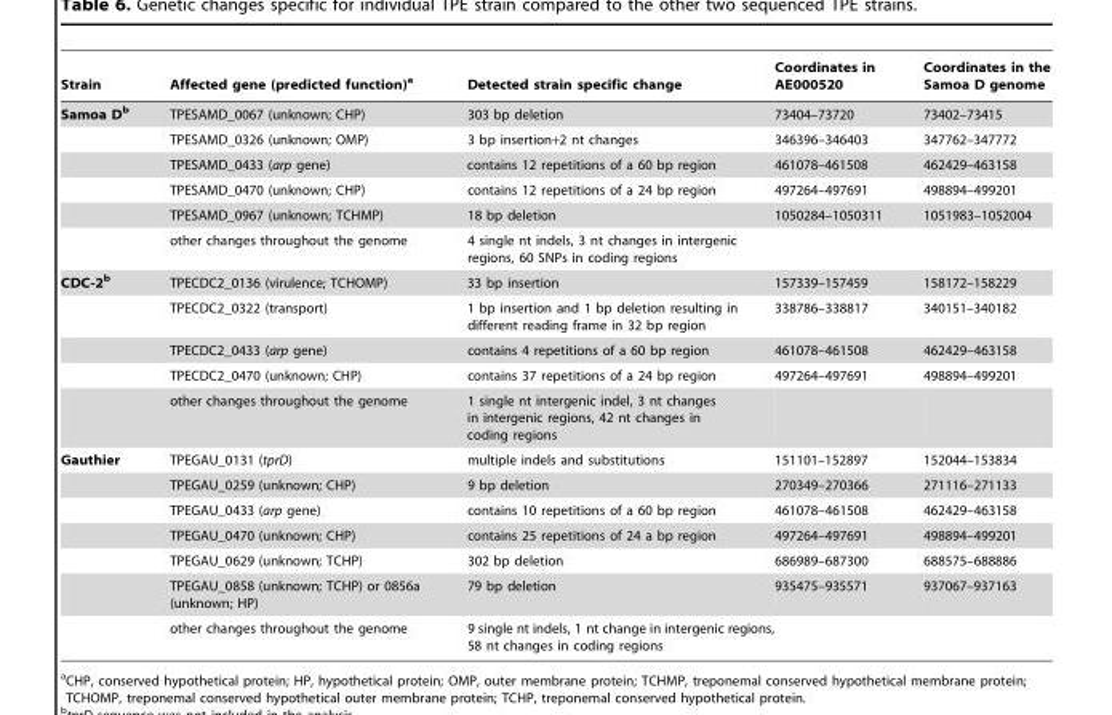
<table><thead><tr><td>Strain</td><td>Affected gene (predicted function)<sup>a</sup></td><td>Detected strain specific change</td><td>Coordinates in AE000520</td><td>Coordinates in the Samoa D genome</td></tr></thead><tbody><tr><td rowspan="6">Samoa Db</td><td>TPESAMD_0067 (unknown; CHP)</td><td>303 bp deletion</td><td>73404–73720</td><td>73402–73415</td></tr><tr><td>TPESAMD_0326 (unknown; OMP)</td><td>3 bp insertion+2 nt changes</td><td>346396–346403</td><td>347762–347772</td></tr><tr><td>TPESAMD_0433 (arp gene)</td><td>contains 12 repetitions of a 60 bp region</td><td>461078–461508</td><td>462429–463158</td></tr><tr><td>TPESAMD_0470 (unknown; CHP)</td><td>contains 12 repetitions of a 24 bp region</td><td>497264–497691</td><td>498894–499201</td></tr><tr><td>TPESAMD_0967 (unknown; TCHMP)</td><td>18 bp deletion</td><td>1050284–1050311</td><td>1051983–1052004</td></tr><tr><td>other changes throughout the genome</td><td>4 single nt indels, 3 nt changes in intergenic regions, 60 SNPs in coding regions</td><td></td><td></td></tr><tr><td rowspan="5">CDC-2b</td><td>TPECDC2_0136 (virulence; TCHOMP)</td><td>33 bp insertion</td><td>157339–157459</td><td>158172–158229</td></tr><tr><td>TPECDC2_0322 (transport)</td><td>1 bp insertion and 1 bp deletion resulting in different reading frame in 32 bp region</td><td>338786–338817</td><td>340151–340182</td></tr><tr><td>TPECDC2_0433 (arp gene)</td><td>contains 4 repetitions of a 60 bp region</td><td>461078–461508</td><td>462429–463158</td></tr><tr><td>TPECDC2_0470 (unknown; CHP)</td><td>contains 37 repetitions of a 24 bp region</td><td>497264–497691</td><td>498894–499201</td></tr><tr><td>other changes throughout the genome</td><td>1 single nt intergenic indel, 3 nt changes in intergenic regions, 42 nt changes in coding regions</td><td></td><td></td></tr><tr><td rowspan="7">Gauthier</td><td>TPEGAU_0131 (tprD)</td><td>multiple indels and substitutions</td><td>151101–152897</td><td>152044–153834</td></tr><tr><td>TPEGAU_0259 (unknown; CHP)</td><td>9 bp deletion</td><td>270349–270366</td><td>271116–271133</td></tr><tr><td>TPEGAU_0433 (arp gene)</td><td>contains 10 repetitions of a 60 bp region</td><td>461078–461508</td><td>462429–463158</td></tr><tr><td>TPEGAU_0470 (unknown; CHP)</td><td>contains 25 repetitions of 24 a bp region</td><td>497264–497691</td><td>498894–499201</td></tr><tr><td>TPEGAU_0629 (unknown; TCHP)</td><td>302 bp deletion</td><td>686989–687300</td><td>688575–688886</td></tr><tr><td>TPEGAU_0858 (unknown; TCHP) or 0856a (unknown; HP)</td><td>79 bp deletion</td><td>935475–935571</td><td>937067–937163</td></tr><tr><td>other changes throughout the genome</td><td>9 single nt indels, 1 nt change in intergenic regions, 58 nt changes in coding regions</td><td></td><td></td></tr></tbody></table>